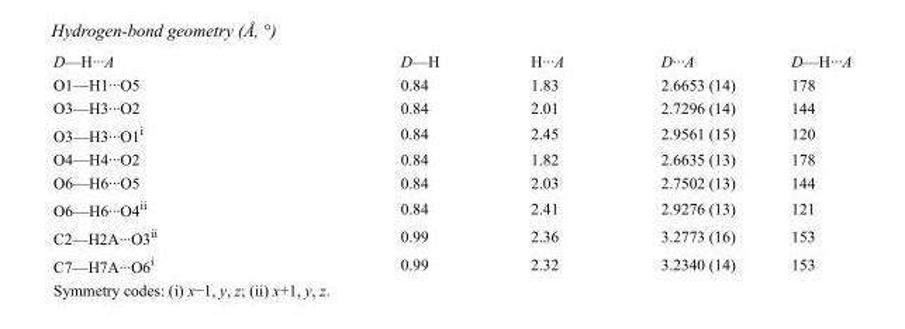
<table><tbody><tr><td>D—H···A</td><td>D—H</td><td>H···A</td><td>D···A</td><td>D—H···A</td></tr><tr><td>O1—H1···O5</td><td>0.84</td><td>1.83</td><td>2.6653 (14)</td><td>178</td></tr><tr><td>O3—H3···O2</td><td>0.84</td><td>2.01</td><td>2.7296 (14)</td><td>144</td></tr><tr><td>O3—H3···O1<sup>i</sup></td><td>0.84</td><td>2.45</td><td>2.9561 (15)</td><td>120</td></tr><tr><td>O4—H4···O2</td><td>0.84</td><td>1.82</td><td>2.6635 (13)</td><td>178</td></tr><tr><td>O6—H6···O5</td><td>0.84</td><td>2.03</td><td>2.7502 (13)</td><td>144</td></tr><tr><td>O6—H6···O4<sup>ii</sup></td><td>0.84</td><td>2.41</td><td>2.9276 (13)</td><td>121</td></tr><tr><td>C2—H2A···O3<sup>ii</sup></td><td>0.99</td><td>2.36</td><td>3.2773 (16)</td><td>153</td></tr><tr><td>C7—H7A···O6<sup>i</sup></td><td>0.99</td><td>2.32</td><td>3.2340 (14)</td><td>153</td></tr></tbody></table>